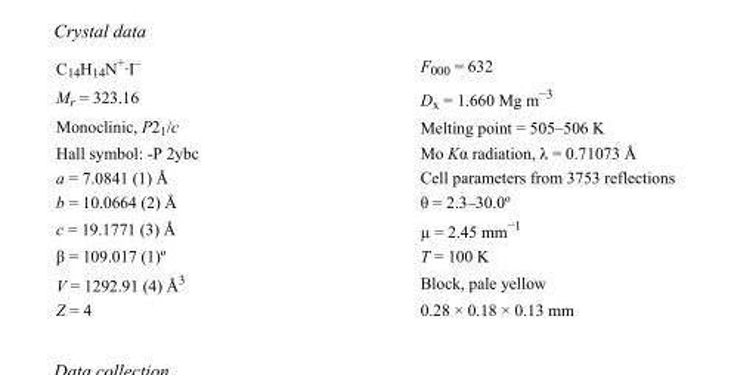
<table><tbody><tr><td>C<sub>14</sub>H<sub>14</sub>N<sup>+</sup>·I<sup>–</sup></td><td>F000 = 632</td></tr><tr><td>M<sub>r</sub> = 323.16</td><td>D<sub>x</sub> = 1.660 Mg m<sup>−3</sup></td></tr><tr><td>Monoclinic, P2<sub>1</sub>/c</td><td>Melting point = 505–506 K</td></tr><tr><td>Hall symbol: -P 2ybc</td><td>Mo Kα radiation, λ = 0.71073 Å</td></tr><tr><td>a = 7.0841 (1) Å</td><td>Cell parameters from 3753 reflections</td></tr><tr><td>b = 10.0664 (2) Å</td><td>θ = 2.3–30.0º</td></tr><tr><td>c = 19.1771 (3) Å</td><td>µ = 2.45 mm<sup>−1</sup></td></tr><tr><td>β = 109.017 (1)º</td><td>T = 100 K</td></tr><tr><td>V = 1292.91 (4) Å<sup>3</sup></td><td>Block, pale yellow</td></tr><tr><td>Z = 4</td><td>0.28 × 0.18 × 0.13 mm</td></tr></tbody></table>